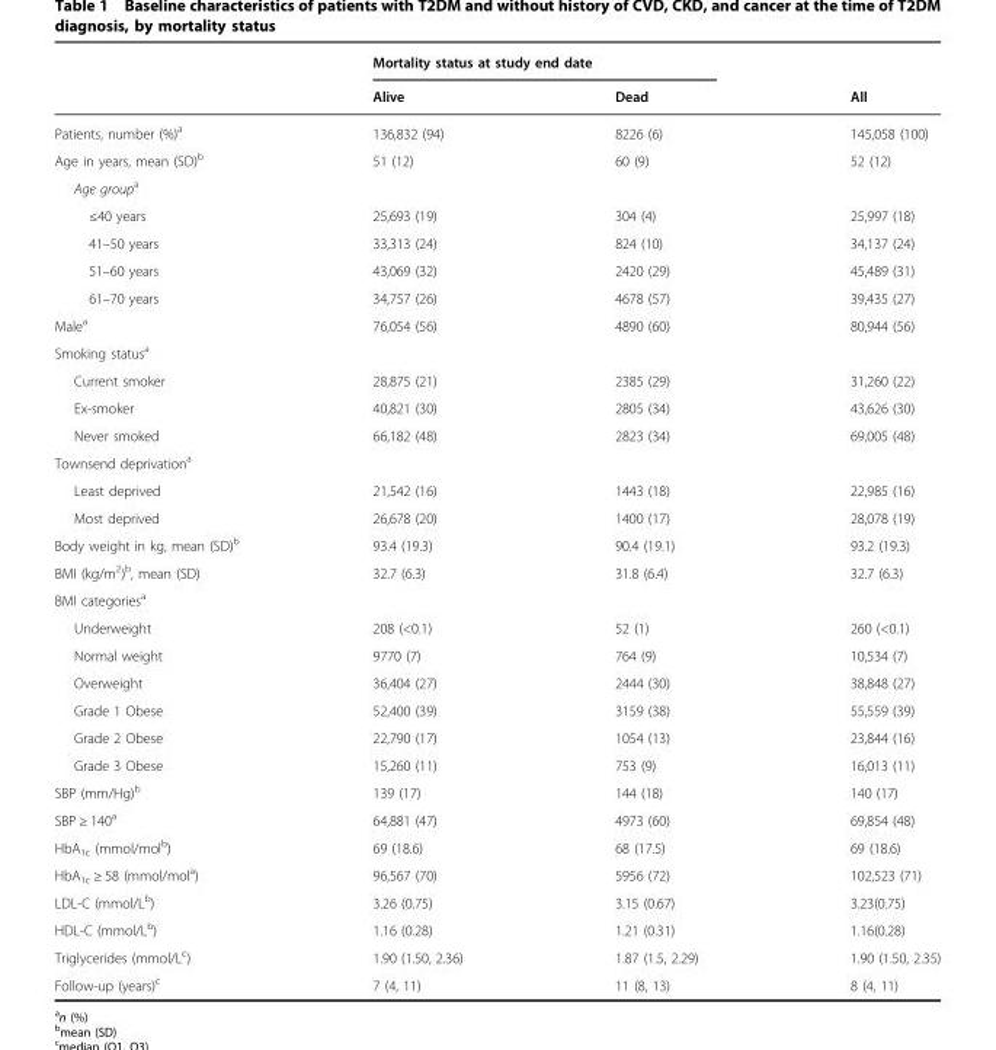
<table><thead><tr><td rowspan="2"></td><td colspan="2">Mortality status at study end date</td><td rowspan="2">All</td></tr><tr><td>Alive</td><td>Dead</td></tr></thead><tbody><tr><td>Patients, number (%)<sup>a</sup></td><td>136,832 (94)</td><td>8226 (6)</td><td>145,058 (100)</td></tr><tr><td>Age in years, mean (SD)<sup>b</sup></td><td>51 (12)</td><td>60 (9)</td><td>52 (12)</td></tr><tr><td colspan="4">Age group<sup>a</sup></td></tr><tr><td>≤40 years</td><td>25,693 (19)</td><td>304 (4)</td><td>25,997 (18)</td></tr><tr><td>41–50 years</td><td>33,313 (24)</td><td>824 (10)</td><td>34,137 (24)</td></tr><tr><td>51–60 years</td><td>43,069 (32)</td><td>2420 (29)</td><td>45,489 (31)</td></tr><tr><td>61–70 years</td><td>34,757 (26)</td><td>4678 (57)</td><td>39,435 (27)</td></tr><tr><td>Male<sup>a</sup></td><td>76,054 (56)</td><td>4890 (60)</td><td>80,944 (56)</td></tr><tr><td colspan="4">Smoking status<sup>a</sup></td></tr><tr><td>Current smoker</td><td>28,875 (21)</td><td>2385 (29)</td><td>31,260 (22)</td></tr><tr><td>Ex-smoker</td><td>40,821 (30)</td><td>2805 (34)</td><td>43,626 (30)</td></tr><tr><td>Never smoked</td><td>66,182 (48)</td><td>2823 (34)</td><td>69,005 (48)</td></tr><tr><td colspan="4">Townsend deprivation<sup>a</sup></td></tr><tr><td>Least deprived</td><td>21,542 (16)</td><td>1443 (18)</td><td>22,985 (16)</td></tr><tr><td>Most deprived</td><td>26,678 (20)</td><td>1400 (17)</td><td>28,078 (19)</td></tr><tr><td>Body weight in kg, mean (SD)<sup>b</sup></td><td>93.4 (19.3)</td><td>90.4 (19.1)</td><td>93.2 (19.3)</td></tr><tr><td>BMI (kg/m<sup>2</sup>)<sup>b</sup>, mean (SD)</td><td>32.7 (6.3)</td><td>31.8 (6.4)</td><td>32.7 (6.3)</td></tr><tr><td colspan="4">BMI categories<sup>a</sup></td></tr><tr><td>Underweight</td><td>208 (&lt;0.1)</td><td>52 (1)</td><td>260 (&lt;0.1)</td></tr><tr><td>Normal weight</td><td>9770 (7)</td><td>764 (9)</td><td>10,534 (7)</td></tr><tr><td>Overweight</td><td>36,404 (27)</td><td>2444 (30)</td><td>38,848 (27)</td></tr><tr><td>Grade 1 Obese</td><td>52,400 (39)</td><td>3159 (38)</td><td>55,559 (39)</td></tr><tr><td>Grade 2 Obese</td><td>22,790 (17)</td><td>1054 (13)</td><td>23,844 (16)</td></tr><tr><td>Grade 3 Obese</td><td>15,260 (11)</td><td>753 (9)</td><td>16,013 (11)</td></tr><tr><td>SBP (mm/Hg)<sup>b</sup></td><td>139 (17)</td><td>144 (18)</td><td>140 (17)</td></tr><tr><td>SBP ≥ 140<sup>a</sup></td><td>64,881 (47)</td><td>4973 (60)</td><td>69,854 (48)</td></tr><tr><td>HbA<sub>1c</sub> (mmol/mol<sup>b</sup>)</td><td>69 (18.6)</td><td>68 (17.5)</td><td>69 (18.6)</td></tr><tr><td>HbA<sub>1c</sub> ≥ 58 (mmol/mol<sup>a</sup>)</td><td>96,567 (70)</td><td>5956 (72)</td><td>102,523 (71)</td></tr><tr><td>LDL-C (mmol/L<sup>b</sup>)</td><td>3.26 (0.75)</td><td>3.15 (0.67)</td><td>3.23(0.75)</td></tr><tr><td>HDL-C (mmol/L<sup>b</sup>)</td><td>1.16 (0.28)</td><td>1.21 (0.31)</td><td>1.16(0.28)</td></tr><tr><td>Triglycerides (mmol/L<sup>c</sup>)</td><td>1.90 (1.50, 2.36)</td><td>1.87 (1.5, 2.29)</td><td>1.90 (1.50, 2.35)</td></tr><tr><td>Follow-up (years)<sup>c</sup></td><td>7 (4, 11)</td><td>11 (8, 13)</td><td>8 (4, 11)</td></tr></tbody></table>